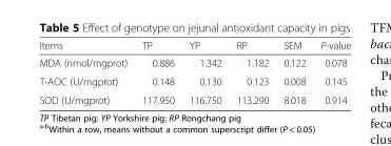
<table><thead><tr><td>Items</td><td>TP</td><td>YP</td><td>RP</td><td>SEM</td><td>P-value</td></tr></thead><tbody><tr><td>MDA (nmol/mgprot)</td><td>0.886</td><td>1.342</td><td>1.182</td><td>0.122</td><td>0.078</td></tr><tr><td>T-AOC (U/mgprot)</td><td>0.148</td><td>0.130</td><td>0.123</td><td>0.008</td><td>0.145</td></tr><tr><td>SOD (U/mgprot)</td><td>117.950</td><td>116.750</td><td>113.290</td><td>8.018</td><td>0.914</td></tr></tbody></table>